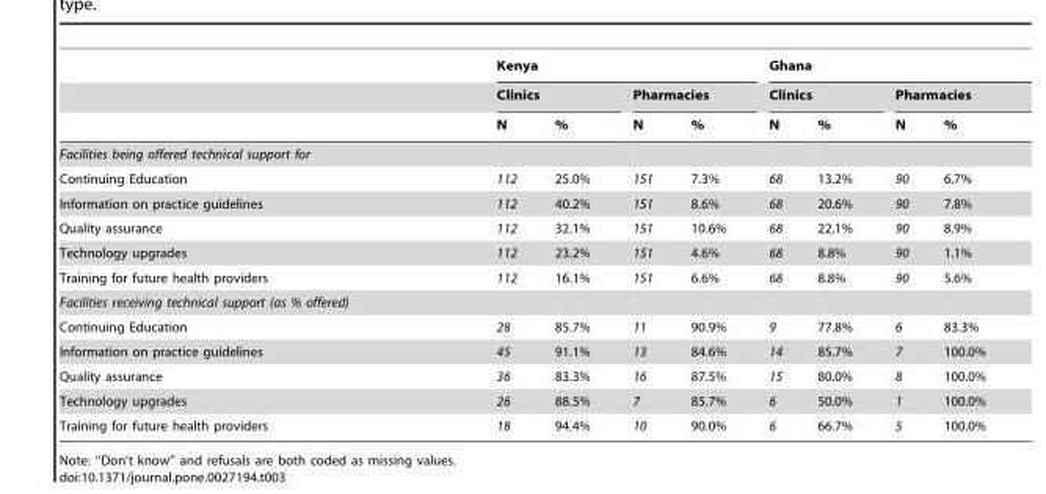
<table><thead><tr><td rowspan="3"></td><td colspan="4">Kenya</td><td colspan="4">Ghana</td></tr><tr><td colspan="2">Clinics</td><td colspan="2">Pharmacies</td><td colspan="2">Clinics</td><td colspan="2">Pharmacies</td></tr><tr><td>N</td><td>%</td><td>N</td><td>%</td><td>N</td><td>%</td><td>N</td><td>%</td></tr></thead><tbody><tr><td colspan="9">Facilities being offered technical support for</td></tr><tr><td>Continuing Education</td><td>112</td><td>25.0%</td><td>151</td><td>7.3%</td><td>68</td><td>13.2%</td><td>90</td><td>6.7%</td></tr><tr><td>Information on practice guidelines</td><td>112</td><td>40.2%</td><td>151</td><td>8.6%</td><td>68</td><td>20.6%</td><td>90</td><td>7.8%</td></tr><tr><td>Quality assurance</td><td>112</td><td>32.1%</td><td>151</td><td>10.6%</td><td>68</td><td>22.1%</td><td>90</td><td>8.9%</td></tr><tr><td>Technology upgrades</td><td>112</td><td>23.2%</td><td>151</td><td>4.6%</td><td>68</td><td>8.8%</td><td>90</td><td>1.1%</td></tr><tr><td>Training for future health providers</td><td>112</td><td>16.1%</td><td>151</td><td>6.6%</td><td>68</td><td>8.8%</td><td>90</td><td>5.6%</td></tr><tr><td colspan="9">Facilities receiving technical support (as % offered)</td></tr><tr><td>Continuing Education</td><td>28</td><td>85.7%</td><td>11</td><td>90.9%</td><td>9</td><td>77.8%</td><td>6</td><td>83.3%</td></tr><tr><td>Information on practice guidelines</td><td>45</td><td>91.1%</td><td>13</td><td>84.6%</td><td>14</td><td>85.7%</td><td>7</td><td>100.0%</td></tr><tr><td>Quality assurance</td><td>36</td><td>83.3%</td><td>16</td><td>87.5%</td><td>15</td><td>80.0%</td><td>8</td><td>100.0%</td></tr><tr><td>Technology upgrades</td><td>26</td><td>88.5%</td><td>7</td><td>85.7%</td><td>6</td><td>50.0%</td><td>1</td><td>100.0%</td></tr><tr><td>Training for future health providers</td><td>18</td><td>94.4%</td><td>10</td><td>90.0%</td><td>6</td><td>66.7%</td><td>5</td><td>100.0%</td></tr></tbody></table>